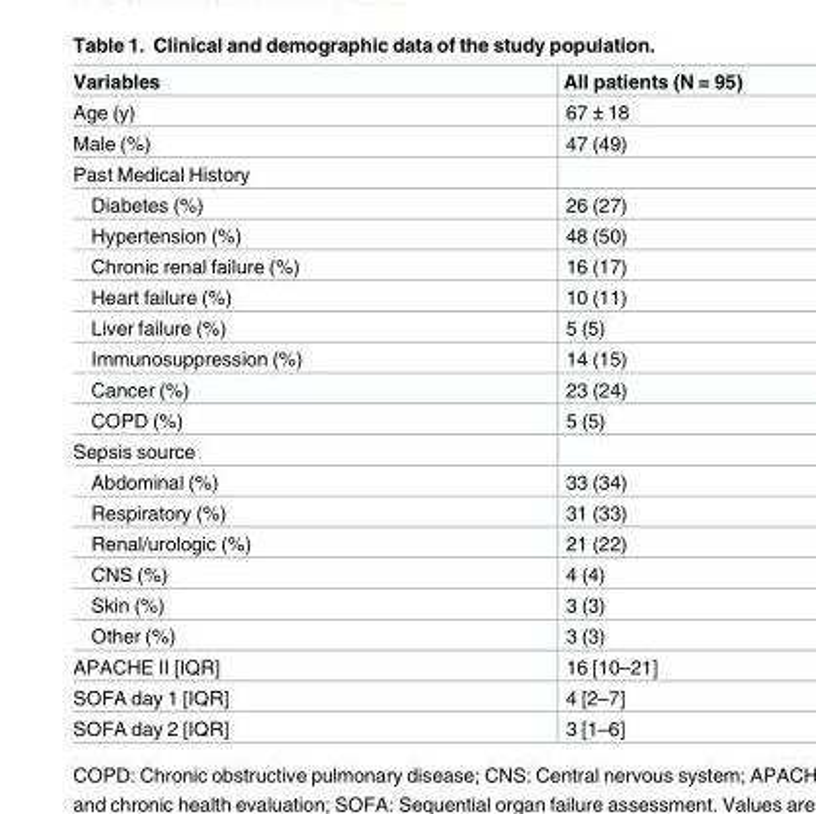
<table><thead><tr><td>Variables</td><td>All patients (N = 95)</td></tr></thead><tbody><tr><td>Age (y)</td><td>67 ± 18</td></tr><tr><td>Male (%)</td><td>47 (49)</td></tr><tr><td colspan="2">Past Medical History</td></tr><tr><td>Diabetes (%)</td><td>26 (27)</td></tr><tr><td>Hypertension (%)</td><td>48 (50)</td></tr><tr><td>Chronic renal failure (%)</td><td>16 (17)</td></tr><tr><td>Heart failure (%)</td><td>10 (11)</td></tr><tr><td>Liver failure (%)</td><td>5 (5)</td></tr><tr><td>Immunosuppression (%)</td><td>14 (15)</td></tr><tr><td>Cancer (%)</td><td>23 (24)</td></tr><tr><td>COPD (%)</td><td>5 (5)</td></tr><tr><td colspan="2">Sepsis source</td></tr><tr><td>Abdominal (%)</td><td>33 (34)</td></tr><tr><td>Respiratory (%)</td><td>31 (33)</td></tr><tr><td>Renal/urologic (%)</td><td>21 (22)</td></tr><tr><td>CNS (%)</td><td>4 (4)</td></tr><tr><td>Skin (%)</td><td>3 (3)</td></tr><tr><td>Other (%)</td><td>3 (3)</td></tr><tr><td>APACHE II [IQR]</td><td>16 [10–21]</td></tr><tr><td>SOFA day 1 [IQR]</td><td>4 [2–7]</td></tr><tr><td>SOFA day 2 [IQR]</td><td>3 [1–6]</td></tr></tbody></table>